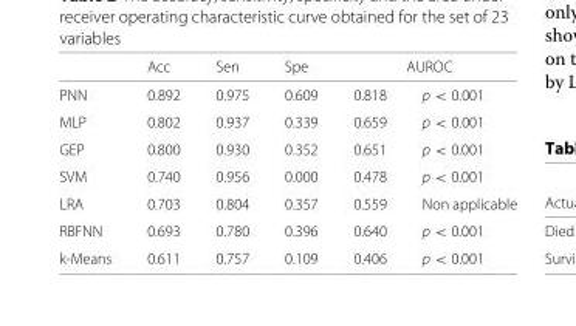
<table><thead><tr><td rowspan="2">PNN</td><td rowspan="2">Acc 0.892</td><td rowspan="2">Sen 0.975</td><td rowspan="2">Spe 0.609</td><td colspan="2">AUROC</td></tr><tr><td>0.818</td><td>p &lt; 0.001</td></tr></thead><tbody><tr><td>MLP</td><td>0.802</td><td>0.937</td><td>0.339</td><td>0.659</td><td>p &lt; 0.001</td></tr><tr><td>GEP</td><td>0.800</td><td>0.930</td><td>0.352</td><td>0.651</td><td>p &lt; 0.001</td></tr><tr><td>SVM</td><td>0.740</td><td>0.956</td><td>0.000</td><td>0.478</td><td>p &lt; 0.001</td></tr><tr><td>LRA</td><td>0.703</td><td>0.804</td><td>0.357</td><td>0.559</td><td>Non applicable</td></tr><tr><td>RBFNN</td><td>0.693</td><td>0.780</td><td>0.396</td><td>0.640</td><td>p &lt; 0.001</td></tr><tr><td>k-Means</td><td>0.611</td><td>0.757</td><td>0.109</td><td>0.406</td><td>p &lt; 0.001</td></tr></tbody></table>